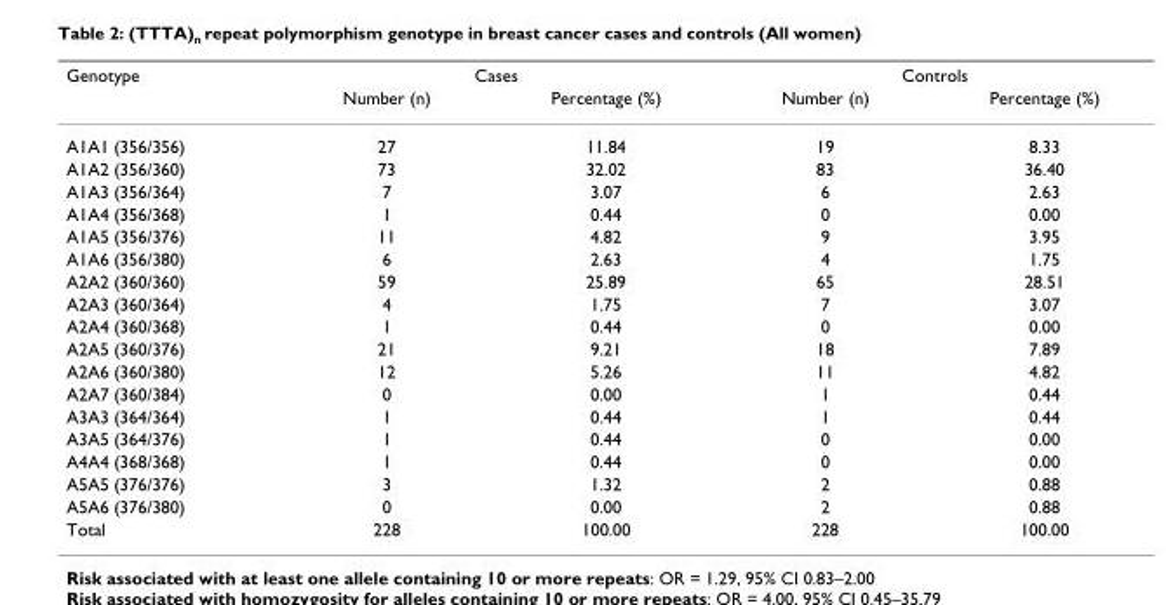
<table><thead><tr><td rowspan="2">Genotype</td><td colspan="2">Cases</td><td colspan="2">Controls</td></tr><tr><td>Number (n)</td><td>Percentage (%)</td><td>Number (n)</td><td>Percentage (%)</td></tr></thead><tbody><tr><td>A1A1 (356/356)</td><td>27</td><td>11.84</td><td>19</td><td>8.33</td></tr><tr><td>A1A2 (356/360)</td><td>73</td><td>32.02</td><td>83</td><td>36.40</td></tr><tr><td>A1A3 (356/364)</td><td>7</td><td>3.07</td><td>6</td><td>2.63</td></tr><tr><td>A1A4 (356/368)</td><td>1</td><td>0.44</td><td>0</td><td>0.00</td></tr><tr><td>A1A5 (356/376)</td><td>11</td><td>4.82</td><td>9</td><td>3.95</td></tr><tr><td>A1A6 (356/380)</td><td>6</td><td>2.63</td><td>4</td><td>1.75</td></tr><tr><td>A2A2 (360/360)</td><td>59</td><td>25.89</td><td>65</td><td>28.51</td></tr><tr><td>A2A3 (360/364)</td><td>4</td><td>1.75</td><td>7</td><td>3.07</td></tr><tr><td>A2A4 (360/368)</td><td>1</td><td>0.44</td><td>0</td><td>0.00</td></tr><tr><td>A2A5 (360/376)</td><td>21</td><td>9.21</td><td>18</td><td>7.89</td></tr><tr><td>A2A6 (360/380)</td><td>12</td><td>5.26</td><td>11</td><td>4.82</td></tr><tr><td>A2A7 (360/384)</td><td>0</td><td>0.00</td><td>1</td><td>0.44</td></tr><tr><td>A3A3 (364/364)</td><td>1</td><td>0.44</td><td>1</td><td>0.44</td></tr><tr><td>A3A5 (364/376)</td><td>1</td><td>0.44</td><td>0</td><td>0.00</td></tr><tr><td>A4A4 (368/368)</td><td>1</td><td>0.44</td><td>0</td><td>0.00</td></tr><tr><td>A5A5 (376/376)</td><td>3</td><td>1.32</td><td>2</td><td>0.88</td></tr><tr><td>A5A6 (376/380)</td><td>0</td><td>0.00</td><td>2</td><td>0.88</td></tr><tr><td>Total</td><td>228</td><td>100.00</td><td>228</td><td>100.00</td></tr></tbody></table>